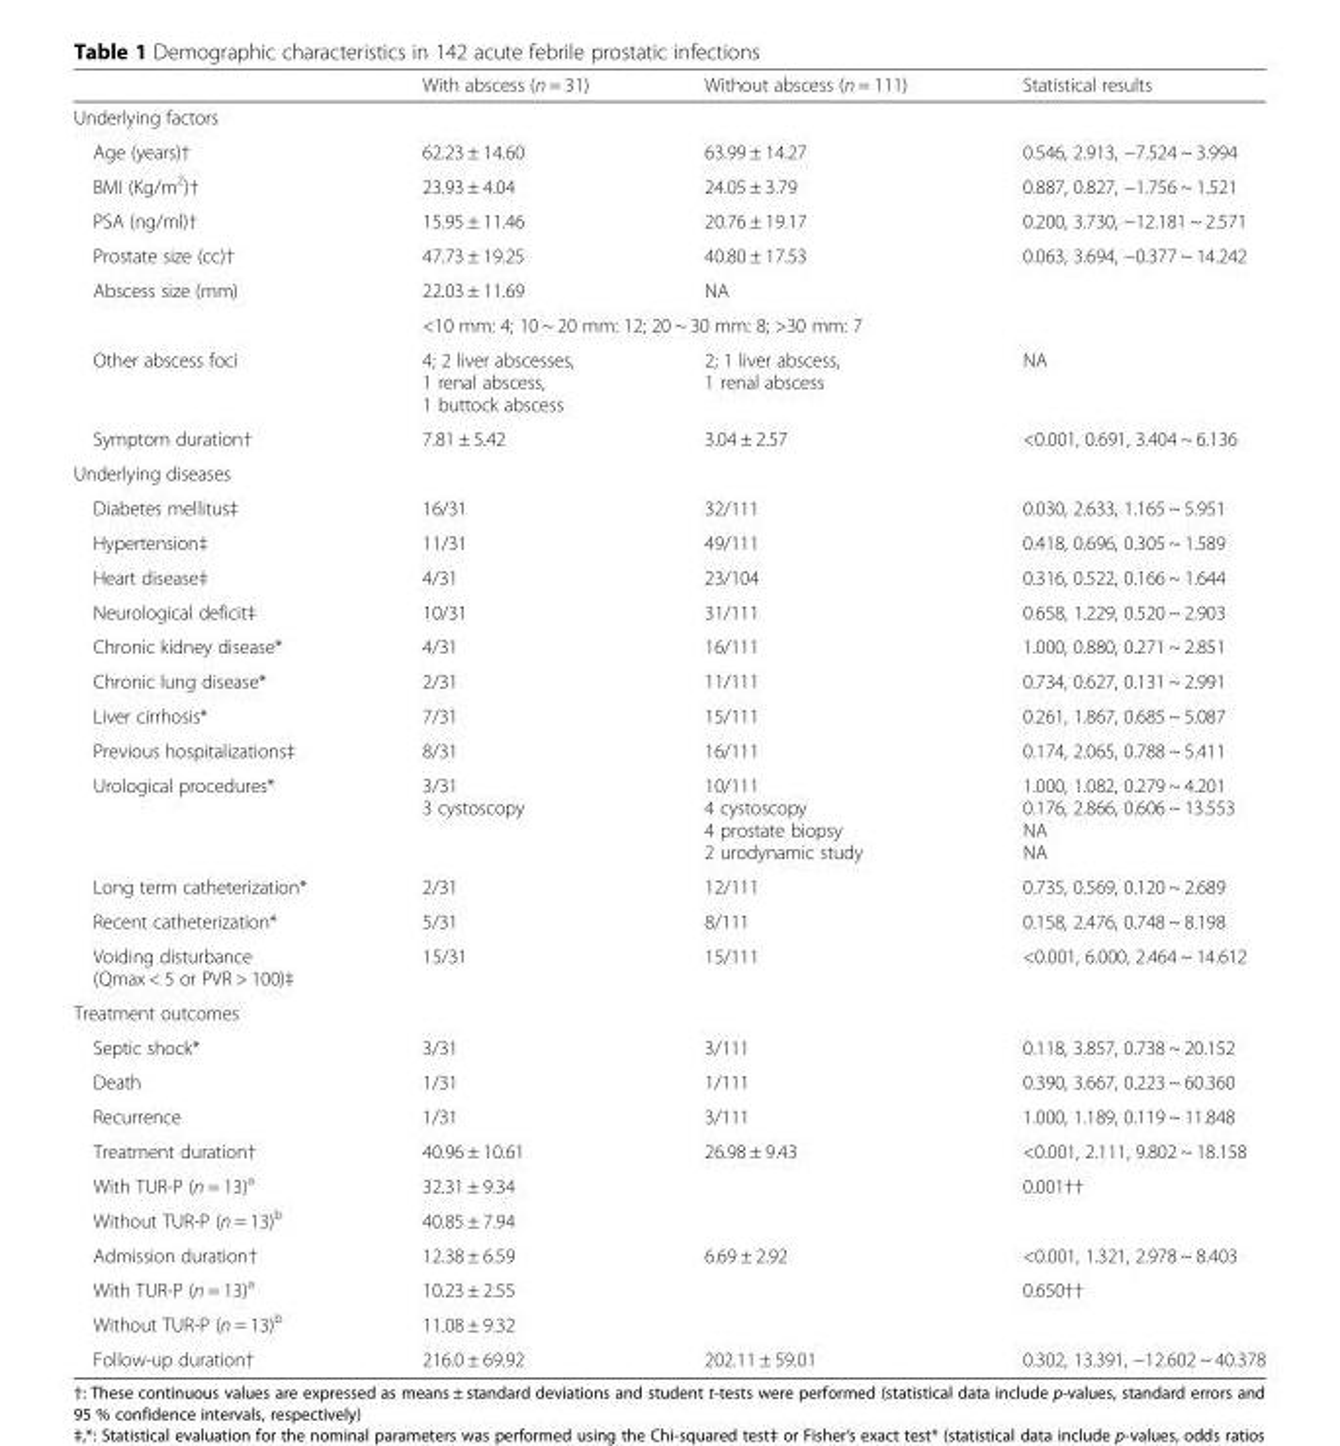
<table><thead><tr><td></td><td>With abscess (n = 31)</td><td>Without abscess (n = 111)</td><td>Statistical results</td></tr></thead><tbody><tr><td colspan="4">Underlying factors</td></tr><tr><td>Age (years)†</td><td>62.23 ± 14.60</td><td>63.99 ± 14.27</td><td>0.546, 2.913, −7.524 ~ 3.994</td></tr><tr><td>BMI (Kg/m<sup>2</sup>)†</td><td>23.93 ± 4.04</td><td>24.05 ± 3.79</td><td>0.887, 0.827, −1.756 ~ 1.521</td></tr><tr><td>PSA (ng/ml)†</td><td>15.95 ± 11.46</td><td>20.76 ± 19.17</td><td>0.200, 3.730, −12.181 ~ 2.571</td></tr><tr><td>Prostate size (cc)†</td><td>47.73 ± 19.25</td><td>40.80 ± 17.53</td><td>0.063, 3.694, −0.377 ~ 14.242</td></tr><tr><td rowspan="2">Abscess size (mm)</td><td>22.03 ± 11.69</td><td colspan="2">NA</td></tr><tr><td colspan="3">&lt;10 mm: 4; 10 ~ 20 mm: 12; 20 ~ 30 mm: 8; &gt;30 mm: 7</td></tr><tr><td>Other abscess foci</td><td>4; 2 liver abscesses, 1 renal abscess, 1 buttock abscess</td><td>2; 1 liver abscess, 1 renal abscess</td><td>NA</td></tr><tr><td>Symptom duration†</td><td>7.81 ± 5.42</td><td>3.04 ± 2.57</td><td>&lt;0.001, 0.691, 3.404 ~ 6.136</td></tr><tr><td colspan="4">Underlying diseases</td></tr><tr><td>Diabetes mellitus‡</td><td>16/31</td><td>32/111</td><td>0.030, 2.633, 1.165 ~ 5.951</td></tr><tr><td>Hypertension‡</td><td>11/31</td><td>49/111</td><td>0.418, 0.696, 0.305 ~ 1.589</td></tr><tr><td>Heart disease‡</td><td>4/31</td><td>23/104</td><td>0.316, 0.522, 0.166 ~ 1.644</td></tr><tr><td>Neurological deficit‡</td><td>10/31</td><td>31/111</td><td>0.658, 1.229, 0.520 ~ 2.903</td></tr><tr><td>Chronic kidney disease*</td><td>4/31</td><td>16/111</td><td>1.000, 0.880, 0.271 ~ 2.851</td></tr><tr><td>Chronic lung disease*</td><td>2/31</td><td>11/111</td><td>0.734, 0.627, 0.131 ~ 2.991</td></tr><tr><td>Liver cirrhosis*</td><td>7/31</td><td>15/111</td><td>0.261, 1.867, 0.685 ~ 5.087</td></tr><tr><td>Previous hospitalizations‡</td><td>8/31</td><td>16/111</td><td>0.174, 2.065, 0.788 ~ 5.411</td></tr><tr><td>Urological procedures*</td><td>3/31 3 cystoscopy</td><td>10/111 4 cystoscopy 4 prostate biopsy 2 urodynamic study</td><td>1.000, 1.082, 0.279 ~ 4.201 0.176, 2.866, 0.606 ~ 13.553 NA NA</td></tr><tr><td>Long term catheterization*</td><td>2/31</td><td>12/111</td><td>0.735, 0.569, 0.120 ~ 2.689</td></tr><tr><td>Recent catheterization*</td><td>5/31</td><td>8/111</td><td>0.158, 2.476, 0.748 ~ 8.198</td></tr><tr><td>Voiding disturbance (Qmax &lt; 5 or PVR &gt; 100)‡</td><td>15/31</td><td>15/111</td><td>&lt;0.001, 6.000, 2.464 ~ 14.612</td></tr><tr><td colspan="4">Treatment outcomes</td></tr><tr><td>Septic shock*</td><td>3/31</td><td>3/111</td><td>0.118, 3.857, 0.738 ~ 20.152</td></tr><tr><td>Death</td><td>1/31</td><td>1/111</td><td>0.390, 3.667, 0.223 ~ 60.360</td></tr><tr><td>Recurrence</td><td>1/31</td><td>3/111</td><td>1.000, 1.189, 0.119 ~ 11.848</td></tr><tr><td>Treatment duration†</td><td>40.96 ± 10.61</td><td>26.98 ± 9.43</td><td>&lt;0.001, 2.111, 9.802 ~ 18.158</td></tr><tr><td>With TUR-P (n = 13)<sup>a</sup></td><td>32.31 ± 9.34</td><td></td><td rowspan="2">0.001††</td></tr><tr><td>Without TUR-P (n = 13)<sup>b</sup></td><td>40.85 ± 7.94</td><td></td></tr><tr><td>Admission duration†</td><td>12.38 ± 6.59</td><td>6.69 ± 2.92</td><td>&lt;0.001, 1.321, 2.978 ~ 8.403</td></tr><tr><td>With TUR-P (n = 13)<sup>a</sup></td><td>10.23 ± 2.55</td><td></td><td rowspan="2">0.650††</td></tr><tr><td>Without TUR-P (n = 13)<sup>b</sup></td><td>11.08 ± 9.32</td><td></td></tr><tr><td>Follow-up duration†</td><td>216.0 ± 69.92</td><td>202.11 ± 59.01</td><td>0.302, 13.391, −12.602 ~ 40.378</td></tr></tbody></table>